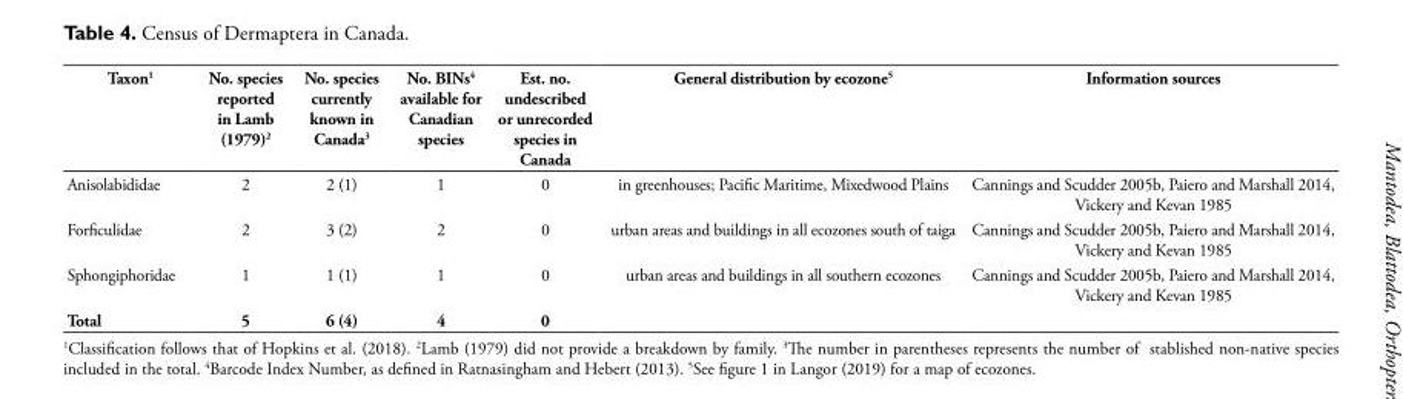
<table><thead><tr><td>Taxon<sup>1</sup></td><td>No. species reported in Lamb (1979)<sup>2</sup></td><td>No. species currently known in Canada<sup>3</sup></td><td>No. BINs<sup>4</sup> available for Canadian species</td><td>Est. no. undescribed or unrecorded species in Canada</td><td>General distribution by ecozone<sup>5</sup></td><td>Information sources</td></tr></thead><tbody><tr><td>Anisolabididae</td><td>2</td><td>2 (1)</td><td>1</td><td>0</td><td>in greenhouses; Pacific Maritime, Mixedwood Plains</td><td>Cannings and Scudder 2005b, Paiero and Marshall 2014, Vickery and Kevan 1985</td></tr><tr><td>Forficulidae</td><td>2</td><td>3 (2)</td><td>2</td><td>0</td><td>urban areas and buildings in all ecozones south of taiga</td><td>Cannings and Scudder 2005b, Paiero and Marshall 2014, Vickery and Kevan 1985</td></tr><tr><td>Sphongiphoridae</td><td>1</td><td>1 (1)</td><td>1</td><td>0</td><td>urban areas and buildings in all southern ecozones</td><td>Cannings and Scudder 2005b, Paiero and Marshall 2014, Vickery and Kevan 1985</td></tr><tr><td>Total</td><td>5</td><td>6 (4)</td><td>4</td><td>0</td><td></td><td></td></tr></tbody></table>